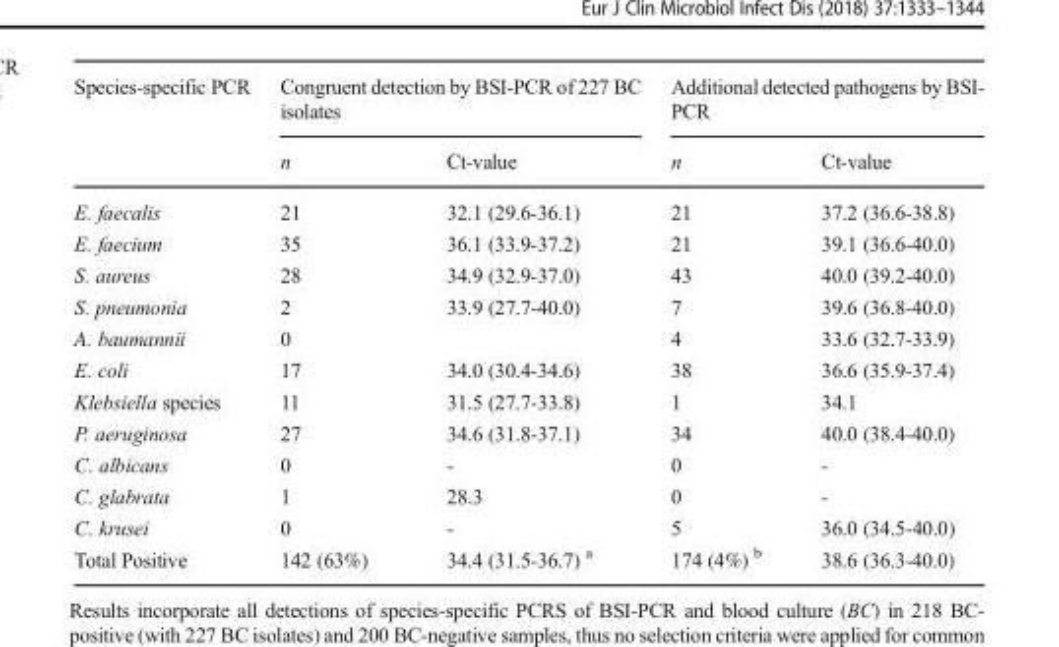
<table><thead><tr><td rowspan="2">Species-specific PCR</td><td colspan="2">Congruent detection by BSI-PCR of 227 BC isolates</td><td colspan="2">Additional detected pathogens by BSI- PCR</td></tr><tr><td>n</td><td>Ct-value</td><td>n</td><td>Ct-value</td></tr></thead><tbody><tr><td>E. faecalis</td><td>21</td><td>32.1 (29.6-36.1)</td><td>21</td><td>37.2 (36.6-38.8)</td></tr><tr><td>E. faecium</td><td>35</td><td>36.1 (33.9-37.2)</td><td>21</td><td>39.1 (36.6-40.0)</td></tr><tr><td>S. aureus</td><td>28</td><td>34.9 (32.9-37.0)</td><td>43</td><td>40.0 (39.2-40.0)</td></tr><tr><td>S. pneumonia</td><td>2</td><td>33.9 (27.7-40.0)</td><td>7</td><td>39.6 (36.8-40.0)</td></tr><tr><td>A. baumannii</td><td>0</td><td></td><td>4</td><td>33.6 (32.7-33.9)</td></tr><tr><td>E. coli</td><td>17</td><td>34.0 (30.4-34.6)</td><td>38</td><td>36.6 (35.9-37.4)</td></tr><tr><td>Klebsiella species</td><td>11</td><td>31.5 (27.7-33.8)</td><td>1</td><td>34.1</td></tr><tr><td>P. aeruginosa</td><td>27</td><td>34.6 (31.8-37.1)</td><td>34</td><td>40.0 (38.4-40.0)</td></tr><tr><td>C. albicans</td><td>0</td><td>-</td><td>0</td><td>-</td></tr><tr><td>C. glabrata</td><td>1</td><td>28.3</td><td>0</td><td>-</td></tr><tr><td>C. krusei</td><td>0</td><td>-</td><td>5</td><td>36.0 (34.5-40.0)</td></tr><tr><td>Total Positive</td><td>142 (63%)</td><td>34.4 (31.5-36.7) <sup>a</sup></td><td>174 (4%) <sup>b</sup></td><td>38.6 (36.3-40.0)</td></tr></tbody></table>